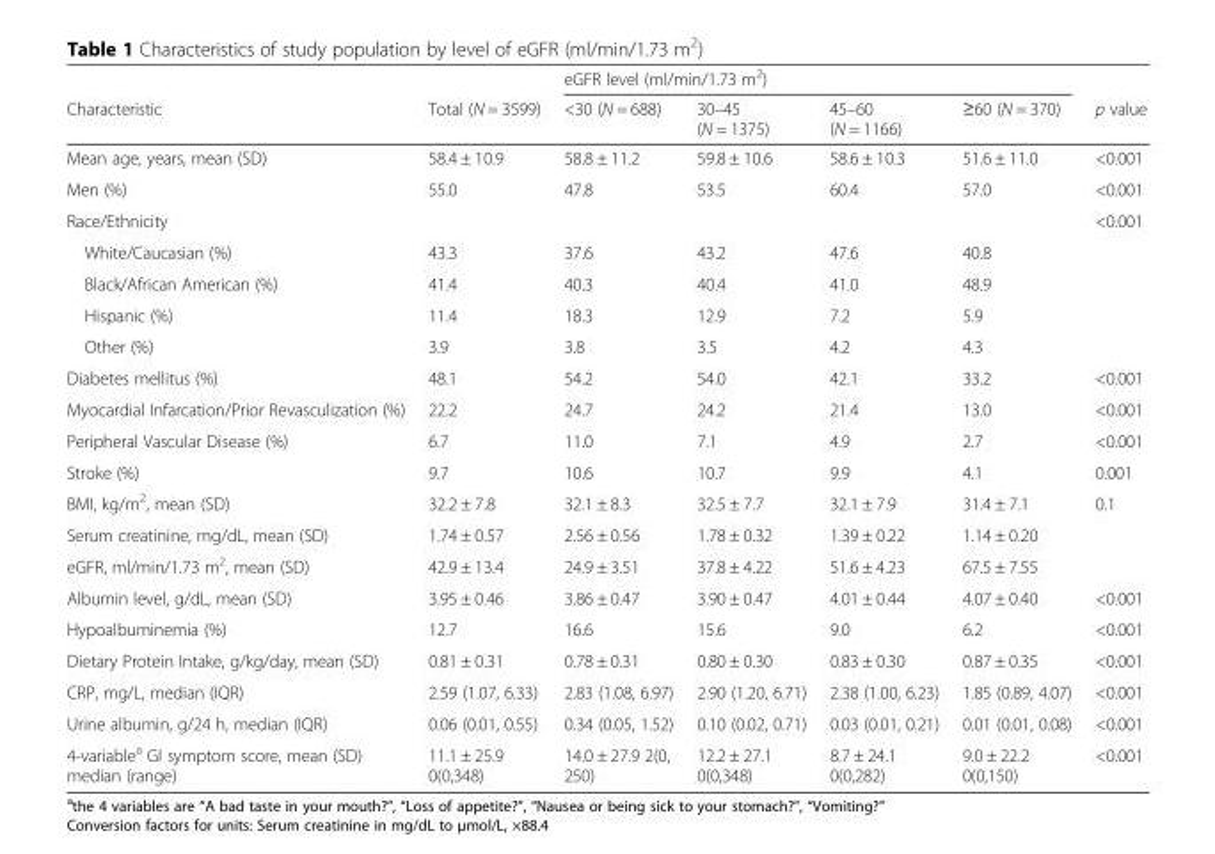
<table><thead><tr><td rowspan="2">Characteristic</td><td rowspan="2">Total (N = 3599)</td><td colspan="4">eGFR level (ml/min/1.73 m<sup>2</sup>)</td><td rowspan="2">p value</td></tr><tr><td>&lt;30 (N = 688)</td><td>30–45 (N = 1375)</td><td>45–60 (N = 1166)</td><td>≥60 (N = 370)</td></tr></thead><tbody><tr><td>Mean age, years, mean (SD)</td><td>58.4 ± 10.9</td><td>58.8 ± 11.2</td><td>59.8 ± 10.6</td><td>58.6 ± 10.3</td><td>51.6 ± 11.0</td><td>&lt;0.001</td></tr><tr><td>Men (%)</td><td>55.0</td><td>47.8</td><td>53.5</td><td>60.4</td><td>57.0</td><td>&lt;0.001</td></tr><tr><td>Race/Ethnicity</td><td></td><td></td><td></td><td></td><td></td><td>&lt;0.001</td></tr><tr><td>White/Caucasian (%)</td><td>43.3</td><td>37.6</td><td>43.2</td><td>47.6</td><td>40.8</td><td></td></tr><tr><td>Black/African American (%)</td><td>41.4</td><td>40.3</td><td>40.4</td><td>41.0</td><td>48.9</td><td></td></tr><tr><td>Hispanic (%)</td><td>11.4</td><td>18.3</td><td>12.9</td><td>7.2</td><td>5.9</td><td></td></tr><tr><td>Other (%)</td><td>3.9</td><td>3.8</td><td>3.5</td><td>4.2</td><td>4.3</td><td></td></tr><tr><td>Diabetes mellitus (%)</td><td>48.1</td><td>54.2</td><td>54.0</td><td>42.1</td><td>33.2</td><td>&lt;0.001</td></tr><tr><td>Myocardial Infarcation/Prior Revasculization (%)</td><td>22.2</td><td>24.7</td><td>24.2</td><td>21.4</td><td>13.0</td><td>&lt;0.001</td></tr><tr><td>Peripheral Vascular Disease (%)</td><td>6.7</td><td>11.0</td><td>7.1</td><td>4.9</td><td>2.7</td><td>&lt;0.001</td></tr><tr><td>Stroke (%)</td><td>9.7</td><td>10.6</td><td>10.7</td><td>9.9</td><td>4.1</td><td>0.001</td></tr><tr><td>BMI, kg/m<sup>2</sup>, mean (SD)</td><td>32.2 ± 7.8</td><td>32.1 ± 8.3</td><td>32.5 ± 7.7</td><td>32.1 ± 7.9</td><td>31.4 ± 7.1</td><td>0.1</td></tr><tr><td>Serum creatinine, mg/dL, mean (SD)</td><td>1.74 ± 0.57</td><td>2.56 ± 0.56</td><td>1.78 ± 0.32</td><td>1.39 ± 0.22</td><td>1.14 ± 0.20</td><td></td></tr><tr><td>eGFR, ml/min/1.73 m<sup>2</sup>, mean (SD)</td><td>42.9 ± 13.4</td><td>24.9 ± 3.51</td><td>37.8 ± 4.22</td><td>51.6 ± 4.23</td><td>67.5 ± 7.55</td><td></td></tr><tr><td>Albumin level, g/dL, mean (SD)</td><td>3.95 ± 0.46</td><td>3.86 ± 0.47</td><td>3.90 ± 0.47</td><td>4.01 ± 0.44</td><td>4.07 ± 0.40</td><td>&lt;0.001</td></tr><tr><td>Hypoalbuminemia (%)</td><td>12.7</td><td>16.6</td><td>15.6</td><td>9.0</td><td>6.2</td><td>&lt;0.001</td></tr><tr><td>Dietary Protein Intake, g/kg/day, mean (SD)</td><td>0.81 ± 0.31</td><td>0.78 ± 0.31</td><td>0.80 ± 0.30</td><td>0.83 ± 0.30</td><td>0.87 ± 0.35</td><td>&lt;0.001</td></tr><tr><td>CRP, mg/L, median (IQR)</td><td>2.59 (1.07, 6.33)</td><td>2.83 (1.08, 6.97)</td><td>2.90 (1.20, 6.71)</td><td>2.38 (1.00, 6.23)</td><td>1.85 (0.89, 4.07)</td><td>&lt;0.001</td></tr><tr><td>Urine albumin, g/24 h, median (IQR)</td><td>0.06 (0.01, 0.55)</td><td>0.34 (0.05, 1.52)</td><td>0.10 (0.02, 0.71)</td><td>0.03 (0.01, 0.21)</td><td>0.01 (0.01, 0.08)</td><td>&lt;0.001</td></tr><tr><td>4-variable<sup>a</sup> GI symptom score, mean (SD) median (range)</td><td>11.1 ± 25.9 0(0,348)</td><td>14.0 ± 27.9 2(0, 250)</td><td>12.2 ± 27.1 0(0,348)</td><td>8.7 ± 24.1 0(0,282)</td><td>9.0 ± 22.2 0(0,150)</td><td>&lt;0.001</td></tr></tbody></table>